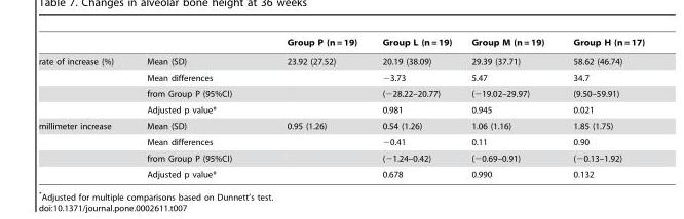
<table><thead><tr><td></td><td></td><td>Group P (n = 19)</td><td>Group L (n = 19)</td><td>Group M (n = 19)</td><td>Group H (n = 17)</td></tr></thead><tbody><tr><td rowspan="4">rate of increase (%)</td><td>Mean (SD)</td><td>23.92 (27.52)</td><td>20.19 (38.09)</td><td>29.39 (37.71)</td><td>58.62 (46.74)</td></tr><tr><td>Mean differences</td><td></td><td>−3.73</td><td>5.47</td><td>34.7</td></tr><tr><td>from Group P (95%CI)</td><td></td><td>(−28.22–20.77)</td><td>(−19.02–29.97)</td><td>(9.50–59.91)</td></tr><tr><td>Adjusted p value*</td><td></td><td>0.981</td><td>0.945</td><td>0.021</td></tr><tr><td rowspan="4">millimeter increase</td><td>Mean (SD)</td><td>0.95 (1.26)</td><td>0.54 (1.26)</td><td>1.06 (1.16)</td><td>1.85 (1.75)</td></tr><tr><td>Mean differences</td><td></td><td>−0.41</td><td>0.11</td><td>0.90</td></tr><tr><td>from Group P (95%CI)</td><td></td><td>(−1.24–0.42)</td><td>(−0.69–0.91)</td><td>(−0.13–1.92)</td></tr><tr><td>Adjusted p value*</td><td></td><td>0.678</td><td>0.990</td><td>0.132</td></tr></tbody></table>